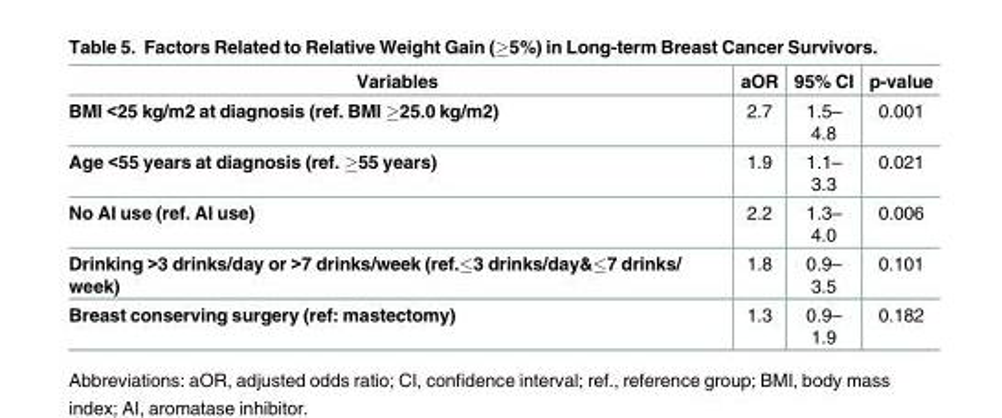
<table><thead><tr><td>Variables</td><td>aOR</td><td>95% CI</td><td>p-value</td></tr></thead><tbody><tr><td>BMI &lt;25 kg/m2 at diagnosis (ref. BMI ≥25.0 kg/m2)</td><td>2.7</td><td>1.5– 4.8</td><td>0.001</td></tr><tr><td>Age &lt;55 years at diagnosis (ref. ≥55 years)</td><td>1.9</td><td>1.1– 3.3</td><td>0.021</td></tr><tr><td>No AI use (ref. AI use)</td><td>2.2</td><td>1.3– 4.0</td><td>0.006</td></tr><tr><td>Drinking &gt;3 drinks/day or &gt;7 drinks/week (ref.≤3 drinks/day&amp;≤7 drinks/ week)</td><td>1.8</td><td>0.9– 3.5</td><td>0.101</td></tr><tr><td>Breast conserving surgery (ref: mastectomy)</td><td>1.3</td><td>0.9– 1.9</td><td>0.182</td></tr></tbody></table>